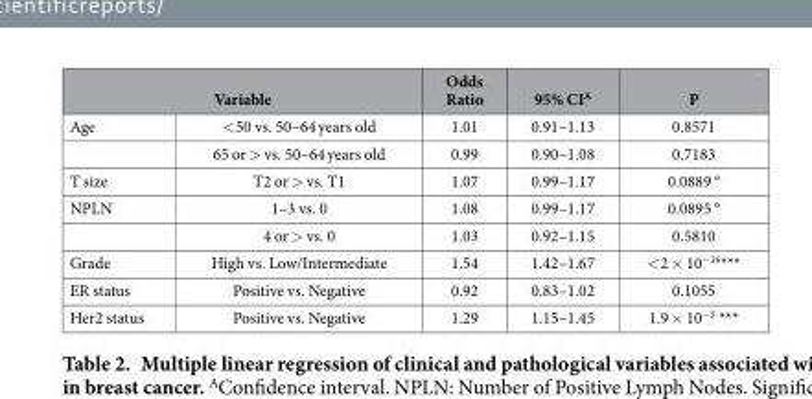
<table><thead><tr><td colspan="2">Variable</td><td rowspan="2">Odds Ratio 1.01</td><td rowspan="2">95% CI<sup>A</sup> 0.91–1.13</td><td rowspan="2">P 0.8571</td></tr><tr><td>Age</td><td>&lt; 50 vs. 50–64 years old</td></tr></thead><tbody><tr><td></td><td>65 or &gt; vs. 50–64 years old</td><td>0.99</td><td>0.90–1.08</td><td>0.7183</td></tr><tr><td>T size</td><td>T2 or &gt; vs. T1</td><td>1.07</td><td>0.99–1.17</td><td>0.0889 °</td></tr><tr><td rowspan="2">NPLN</td><td>1–3 vs. 0</td><td>1.08</td><td>0.99–1.17</td><td>0.0895 °</td></tr><tr><td>4 or &gt; vs. 0</td><td>1.03</td><td>0.92–1.15</td><td>0.5810</td></tr><tr><td>Grade</td><td>High vs. Low/Intermediate</td><td>1.54</td><td>1.42–1.67</td><td>&lt; 2 × 10<sup>−16</sup>***</td></tr><tr><td>ER status</td><td>Positive vs. Negative</td><td>0.92</td><td>0.83–1.02</td><td>0.1055</td></tr><tr><td>Her2 status</td><td>Positive vs. Negative</td><td>1.29</td><td>1.15–1.45</td><td>1.9 × 10<sup>−5</sup> ***</td></tr></tbody></table>